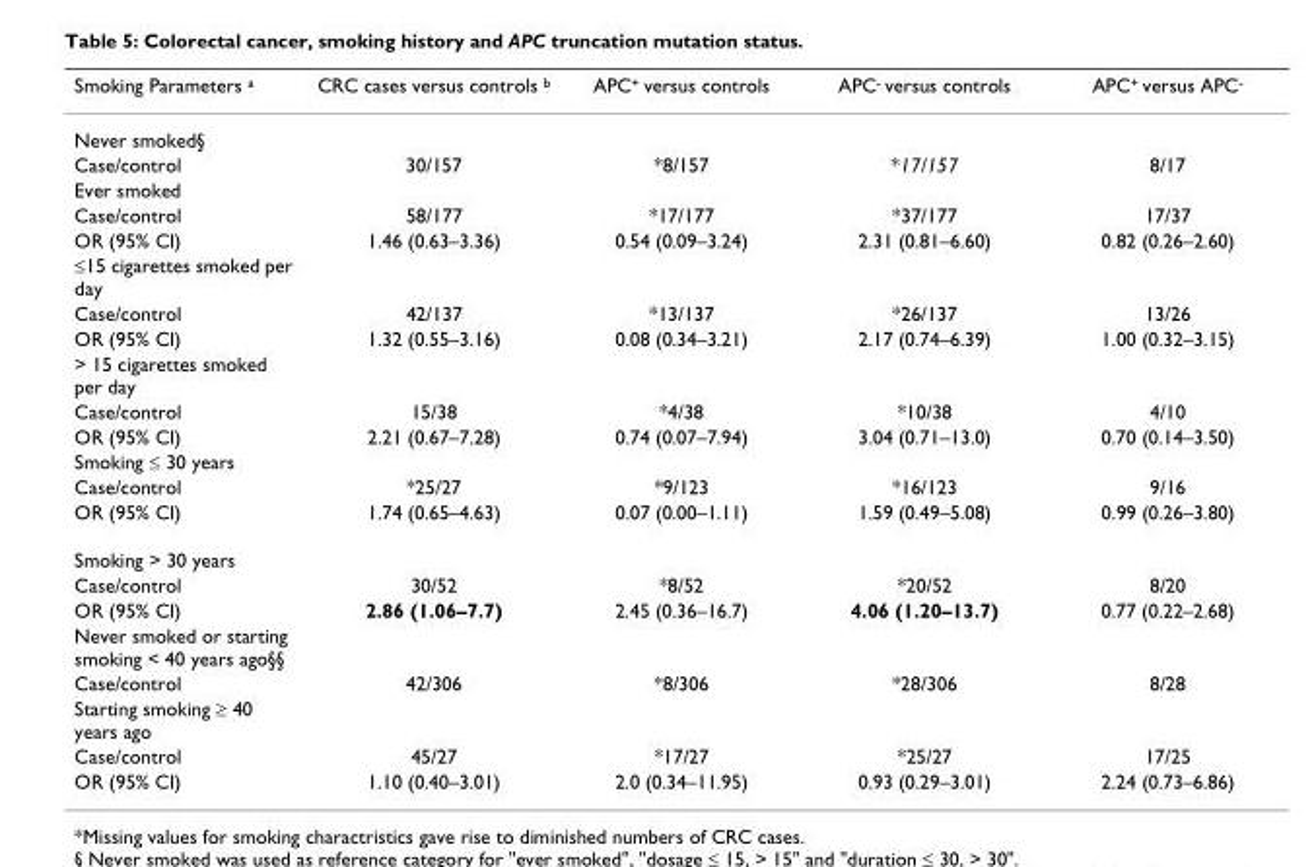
<table><thead><tr><td>Smoking Parameters a</td><td>CRC cases versus controls b</td><td>APC+ versus controls</td><td>APC- versus controls</td><td>APC+ versus APC-</td></tr></thead><tbody><tr><td colspan="5">Never smoked§</td></tr><tr><td>Case/control</td><td>30/157</td><td>*8/157</td><td>*17/157</td><td>8/17</td></tr><tr><td colspan="5">Ever smoked</td></tr><tr><td>Case/control</td><td>58/177</td><td>*17/177</td><td>*37/177</td><td>17/37</td></tr><tr><td>OR (95% CI)</td><td>1.46 (0.63–3.36)</td><td>0.54 (0.09–3.24)</td><td>2.31 (0.81–6.60)</td><td>0.82 (0.26–2.60)</td></tr><tr><td colspan="5">≤15 cigarettes smoked per day</td></tr><tr><td>Case/control</td><td>42/137</td><td>*13/137</td><td>*26/137</td><td>13/26</td></tr><tr><td>OR (95% CI)</td><td>1.32 (0.55–3.16)</td><td>0.08 (0.34–3.21)</td><td>2.17 (0.74–6.39)</td><td>1.00 (0.32–3.15)</td></tr><tr><td colspan="5">&gt; 15 cigarettes smoked per day</td></tr><tr><td>Case/control</td><td>15/38</td><td>*4/38</td><td>*10/38</td><td>4/10</td></tr><tr><td>OR (95% CI)</td><td>2.21 (0.67–7.28)</td><td>0.74 (0.07–7.94)</td><td>3.04 (0.71–13.0)</td><td>0.70 (0.14–3.50)</td></tr><tr><td colspan="5">Smoking ≤ 30 years</td></tr><tr><td>Case/control</td><td>*25/27</td><td>*9/123</td><td>*16/123</td><td>9/16</td></tr><tr><td>OR (95% CI)</td><td>1.74 (0.65–4.63)</td><td>0.07 (0.00–1.11)</td><td>1.59 (0.49–5.08)</td><td>0.99 (0.26–3.80)</td></tr><tr><td colspan="5">Smoking &gt; 30 years</td></tr><tr><td>Case/control</td><td>30/52</td><td>*8/52</td><td>*20/52</td><td>8/20</td></tr><tr><td>OR (95% CI)</td><td>2.86 (1.06–7.7)</td><td>2.45 (0.36–16.7)</td><td>4.06 (1.20–13.7)</td><td>0.77 (0.22–2.68)</td></tr><tr><td colspan="5">Never smoked or starting smoking &lt; 40 years ago§§</td></tr><tr><td>Case/control</td><td>42/306</td><td>*8/306</td><td>*28/306</td><td>8/28</td></tr><tr><td colspan="5">Starting smoking ≥ 40 years ago</td></tr><tr><td>Case/control</td><td>45/27</td><td>*17/27</td><td>*25/27</td><td>17/25</td></tr><tr><td>OR (95% CI)</td><td>1.10 (0.40–3.01)</td><td>2.0 (0.34–11.95)</td><td>0.93 (0.29–3.01)</td><td>2.24 (0.73–6.86)</td></tr></tbody></table>